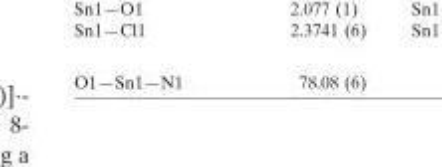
<table><tbody><tr><td>O1—Sn1—N1</td><td>78.08 (6)</td></tr></tbody></table>